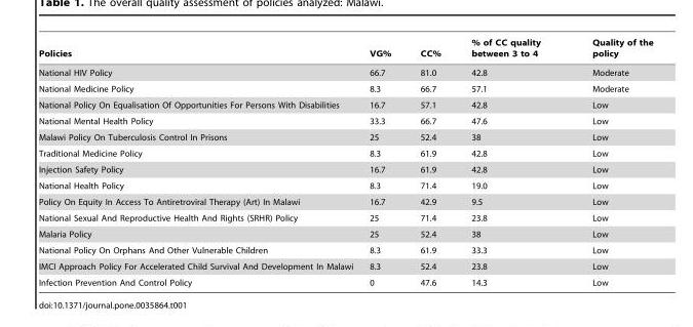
<table><thead><tr><td>Policies</td><td>VG%</td><td>CC%</td><td>% of CC quality between 3 to 4</td><td>Quality of the policy</td></tr></thead><tbody><tr><td>National HIV Policy</td><td>66.7</td><td>81.0</td><td>42.8</td><td>Moderate</td></tr><tr><td>National Medicine Policy</td><td>8.3</td><td>66.7</td><td>57.1</td><td>Moderate</td></tr><tr><td>National Policy On Equalisation Of Opportunities For Persons With Disabilities</td><td>16.7</td><td>57.1</td><td>42.8</td><td>Low</td></tr><tr><td>National Mental Health Policy</td><td>33.3</td><td>66.7</td><td>47.6</td><td>Low</td></tr><tr><td>Malawi Policy On Tuberculosis Control In Prisons</td><td>25</td><td>52.4</td><td>38</td><td>Low</td></tr><tr><td>Traditional Medicine Policy</td><td>8.3</td><td>61.9</td><td>42.8</td><td>Low</td></tr><tr><td>Injection Safety Policy</td><td>16.7</td><td>61.9</td><td>42.8</td><td>Low</td></tr><tr><td>National Health Policy</td><td>8.3</td><td>71.4</td><td>19.0</td><td>Low</td></tr><tr><td>Policy On Equity In Access To Antiretroviral Therapy (Art) In Malawi</td><td>16.7</td><td>42.9</td><td>9.5</td><td>Low</td></tr><tr><td>National Sexual And Reproductive Health And Rights (SRHR) Policy</td><td>25</td><td>71.4</td><td>23.8</td><td>Low</td></tr><tr><td>Malaria Policy</td><td>25</td><td>52.4</td><td>38</td><td>Low</td></tr><tr><td>National Policy On Orphans And Other Vulnerable Children</td><td>8.3</td><td>61.9</td><td>33.3</td><td>Low</td></tr><tr><td>IMCI Approach Policy For Accelerated Child Survival And Development In Malawi</td><td>8.3</td><td>52.4</td><td>23.8</td><td>Low</td></tr><tr><td>Infection Prevention And Control Policy</td><td>0</td><td>47.6</td><td>14.3</td><td>Low</td></tr></tbody></table>